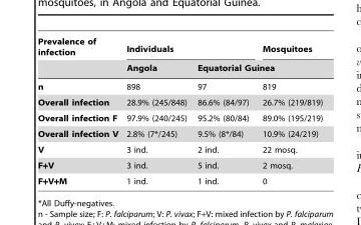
<table><thead><tr><td rowspan="3">Prevalence of infection n</td><td colspan="2">Individuals</td><td>Mosquitoes</td></tr><tr><td rowspan="2">Angola 898</td><td colspan="2">Equatorial Guinea</td></tr><tr><td>97</td><td>819</td></tr></thead><tbody><tr><td>Overall infection</td><td>28.9% (245/848)</td><td>86.6% (84/97)</td><td>26.7% (219/819)</td></tr><tr><td>Overall infection F</td><td>97.9% (240/245)</td><td>95.2% (80/84)</td><td>89.0% (195/219)</td></tr><tr><td>Overall infection V</td><td>2.8% (7*/245)</td><td>9.5% (8*/84)</td><td>10.9% (24/219)</td></tr><tr><td>V</td><td>3 ind.</td><td>2 ind.</td><td>22 mosq.</td></tr><tr><td>F+V</td><td>3 ind.</td><td>5 ind.</td><td>2 mosq.</td></tr><tr><td>F+V+M</td><td>1 ind.</td><td>1 ind.</td><td>0</td></tr></tbody></table>